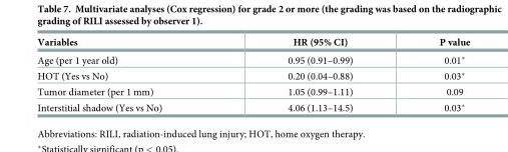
<table><thead><tr><td>Variables</td><td>HR (95% CI)</td><td>P value</td></tr></thead><tbody><tr><td>Age (per 1 year old)</td><td>0.95 (0.91–0.99)</td><td>0.01*</td></tr><tr><td>HOT (Yes vs No)</td><td>0.20 (0.04–0.88)</td><td>0.03*</td></tr><tr><td>Tumor diameter (per 1 mm)</td><td>1.05 (0.99–1.11)</td><td>0.09</td></tr><tr><td>Interstitial shadow (Yes vs No)</td><td>4.06 (1.13–14.5)</td><td>0.03*</td></tr></tbody></table>